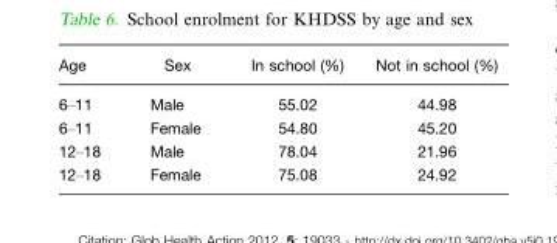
<table><thead><tr><td>Age</td><td>Sex</td><td>In school (%)</td><td>Not in school (%)</td></tr></thead><tbody><tr><td>6–11</td><td>Male</td><td>55.02</td><td>44.98</td></tr><tr><td>6–11</td><td>Female</td><td>54.80</td><td>45.20</td></tr><tr><td>12–18</td><td>Male</td><td>78.04</td><td>21.96</td></tr><tr><td>12–18</td><td>Female</td><td>75.08</td><td>24.92</td></tr></tbody></table>